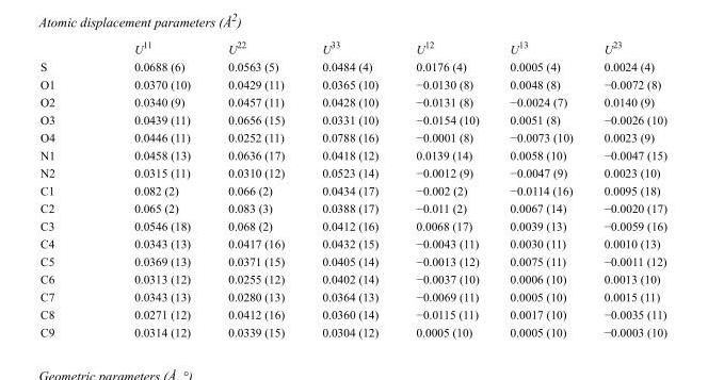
<table><thead><tr><td></td><td>U<sup>11</sup></td><td>U<sup>22</sup></td><td>U<sup>33</sup></td><td>U<sup>12</sup></td><td>U<sup>13</sup></td><td>U<sup>23</sup></td></tr></thead><tbody><tr><td>S</td><td>0.0688 (6)</td><td>0.0563 (5)</td><td>0.0484 (4)</td><td>0.0176 (4)</td><td>0.0005 (4)</td><td>0.0024 (4)</td></tr><tr><td>O1</td><td>0.0370 (10)</td><td>0.0429 (11)</td><td>0.0365 (10)</td><td>−0.0130 (8)</td><td>0.0048 (8)</td><td>−0.0072 (8)</td></tr><tr><td>O2</td><td>0.0340 (9)</td><td>0.0457 (11)</td><td>0.0428 (10)</td><td>−0.0131 (8)</td><td>−0.0024 (7)</td><td>0.0140 (9)</td></tr><tr><td>O3</td><td>0.0439 (11)</td><td>0.0656 (15)</td><td>0.0331 (10)</td><td>−0.0154 (10)</td><td>0.0051 (8)</td><td>−0.0026 (10)</td></tr><tr><td>O4</td><td>0.0446 (11)</td><td>0.0252 (11)</td><td>0.0788 (16)</td><td>−0.0001 (8)</td><td>−0.0073 (10)</td><td>0.0023 (9)</td></tr><tr><td>N1</td><td>0.0458 (13)</td><td>0.0636 (17)</td><td>0.0418 (12)</td><td>0.0139 (14)</td><td>0.0058 (10)</td><td>−0.0047 (15)</td></tr><tr><td>N2</td><td>0.0315 (11)</td><td>0.0310 (12)</td><td>0.0523 (14)</td><td>−0.0012 (9)</td><td>−0.0047 (9)</td><td>0.0023 (10)</td></tr><tr><td>C1</td><td>0.082 (2)</td><td>0.066 (2)</td><td>0.0434 (17)</td><td>−0.002 (2)</td><td>−0.0114 (16)</td><td>0.0095 (18)</td></tr><tr><td>C2</td><td>0.065 (2)</td><td>0.083 (3)</td><td>0.0388 (17)</td><td>−0.011 (2)</td><td>0.0067 (14)</td><td>−0.0020 (17)</td></tr><tr><td>C3</td><td>0.0546 (18)</td><td>0.068 (2)</td><td>0.0412 (16)</td><td>0.0068 (17)</td><td>0.0039 (13)</td><td>−0.0059 (16)</td></tr><tr><td>C4</td><td>0.0343 (13)</td><td>0.0417 (16)</td><td>0.0432 (15)</td><td>−0.0043 (11)</td><td>0.0030 (11)</td><td>0.0010 (13)</td></tr><tr><td>C5</td><td>0.0369 (13)</td><td>0.0371 (15)</td><td>0.0405 (14)</td><td>−0.0013 (12)</td><td>0.0075 (11)</td><td>−0.0011 (12)</td></tr><tr><td>C6</td><td>0.0313 (12)</td><td>0.0255 (12)</td><td>0.0402 (14)</td><td>−0.0037 (10)</td><td>0.0006 (10)</td><td>0.0013 (10)</td></tr><tr><td>C7</td><td>0.0343 (13)</td><td>0.0280 (13)</td><td>0.0364 (13)</td><td>−0.0069 (11)</td><td>0.0005 (10)</td><td>0.0015 (11)</td></tr><tr><td>C8</td><td>0.0271 (12)</td><td>0.0412 (16)</td><td>0.0360 (14)</td><td>−0.0115 (11)</td><td>0.0017 (10)</td><td>−0.0035 (11)</td></tr><tr><td>C9</td><td>0.0314 (12)</td><td>0.0339 (15)</td><td>0.0304 (12)</td><td>0.0005 (10)</td><td>0.0005 (10)</td><td>−0.0003 (10)</td></tr></tbody></table>